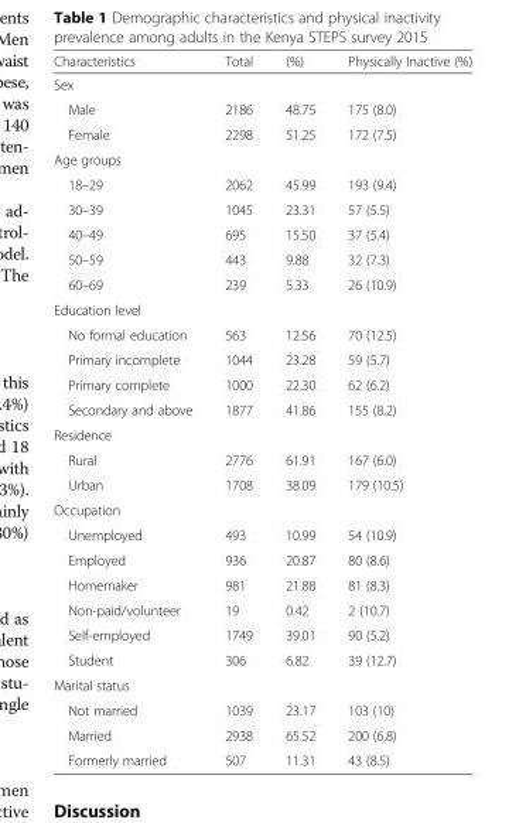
<table><thead><tr><td>Characteristics</td><td>Total</td><td>(%)</td><td>Physically Inactive (%)</td></tr></thead><tbody><tr><td colspan="4">Sex</td></tr><tr><td>Male</td><td>2186</td><td>48.75</td><td>175 (8.0)</td></tr><tr><td>Female</td><td>2298</td><td>51.25</td><td>172 (7.5)</td></tr><tr><td colspan="4">Age groups</td></tr><tr><td>18–29</td><td>2062</td><td>45.99</td><td>193 (9.4)</td></tr><tr><td>30–39</td><td>1045</td><td>23.31</td><td>57 (5.5)</td></tr><tr><td>40–49</td><td>695</td><td>15.50</td><td>37 (5.4)</td></tr><tr><td>50–59</td><td>443</td><td>9.88</td><td>32 (7.3)</td></tr><tr><td>60–69</td><td>239</td><td>5.33</td><td>26 (10.9)</td></tr><tr><td colspan="4">Education level</td></tr><tr><td>No formal education</td><td>563</td><td>12.56</td><td>70 (12.5)</td></tr><tr><td>Primary incomplete</td><td>1044</td><td>23.28</td><td>59 (5.7)</td></tr><tr><td>Primary complete</td><td>1000</td><td>22.30</td><td>62 (6.2)</td></tr><tr><td>Secondary and above</td><td>1877</td><td>41.86</td><td>155 (8.2)</td></tr><tr><td colspan="4">Residence</td></tr><tr><td>Rural</td><td>2776</td><td>61.91</td><td>167 (6.0)</td></tr><tr><td>Urban</td><td>1708</td><td>38.09</td><td>179 (10.5)</td></tr><tr><td colspan="4">Occupation</td></tr><tr><td>Unemployed</td><td>493</td><td>10.99</td><td>54 (10.9)</td></tr><tr><td>Employed</td><td>936</td><td>20.87</td><td>80 (8.6)</td></tr><tr><td>Homemaker</td><td>981</td><td>21.88</td><td>81 (8.3)</td></tr><tr><td>Non-paid/volunteer</td><td>19</td><td>0.42</td><td>2 (10.7)</td></tr><tr><td>Self-employed</td><td>1749</td><td>39.01</td><td>90 (5.2)</td></tr><tr><td>Student</td><td>306</td><td>6.82</td><td>39 (12.7)</td></tr><tr><td colspan="4">Marital status</td></tr><tr><td>Not married</td><td>1039</td><td>23.17</td><td>103 (10)</td></tr><tr><td>Married</td><td>2938</td><td>65.52</td><td>200 (6.8)</td></tr><tr><td>Formerly married</td><td>507</td><td>11.31</td><td>43 (8.5)</td></tr></tbody></table>